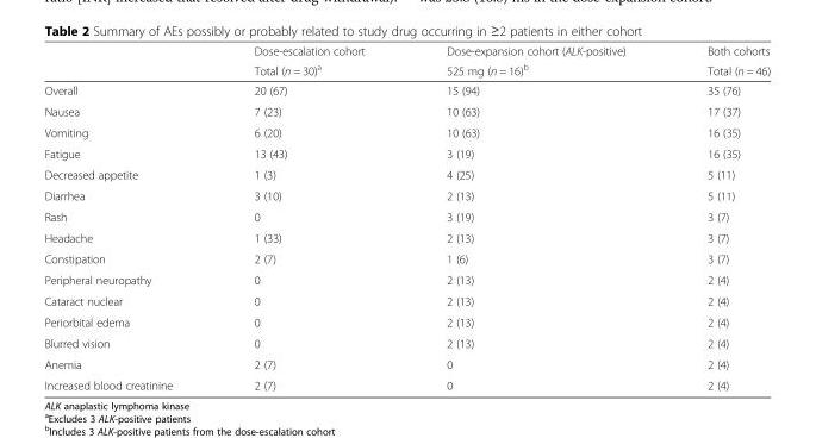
<table><thead><tr><td rowspan="2"></td><td rowspan="2">Dose-escalation cohort Total (n = 30)<sup>a</sup></td><td rowspan="2">Dose-expansion cohort (ALK-positive) 525 mg (n = 16)<sup>b</sup></td><td rowspan="2">Both cohorts Total (n = 46)</td></tr><tr></tr></thead><tbody><tr><td>Overall</td><td>20 (67)</td><td>15 (94)</td><td>35 (76)</td></tr><tr><td>Nausea</td><td>7 (23)</td><td>10 (63)</td><td>17 (37)</td></tr><tr><td>Vomiting</td><td>6 (20)</td><td>10 (63)</td><td>16 (35)</td></tr><tr><td>Fatigue</td><td>13 (43)</td><td>3 (19)</td><td>16 (35)</td></tr><tr><td>Decreased appetite</td><td>1 (3)</td><td>4 (25)</td><td>5 (11)</td></tr><tr><td>Diarrhea</td><td>3 (10)</td><td>2 (13)</td><td>5 (11)</td></tr><tr><td>Rash</td><td>0</td><td>3 (19)</td><td>3 (7)</td></tr><tr><td>Headache</td><td>1 (33)</td><td>2 (13)</td><td>3 (7)</td></tr><tr><td>Constipation</td><td>2 (7)</td><td>1 (6)</td><td>3 (7)</td></tr><tr><td>Peripheral neuropathy</td><td>0</td><td>2 (13)</td><td>2 (4)</td></tr><tr><td>Cataract nuclear</td><td>0</td><td>2 (13)</td><td>2 (4)</td></tr><tr><td>Periorbital edema</td><td>0</td><td>2 (13)</td><td>2 (4)</td></tr><tr><td>Blurred vision</td><td>0</td><td>2 (13)</td><td>2 (4)</td></tr><tr><td>Anemia</td><td>2 (7)</td><td>0</td><td>2 (4)</td></tr><tr><td>Increased blood creatinine</td><td>2 (7)</td><td>0</td><td>2 (4)</td></tr></tbody></table>